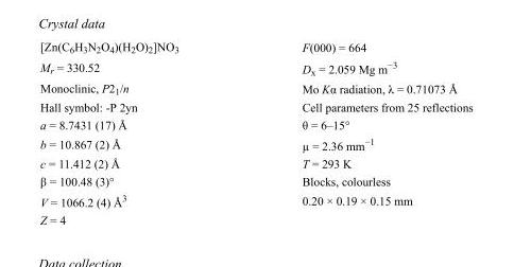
<table><tbody><tr><td>[Zn(C<sub>6</sub>H<sub>3</sub>N<sub>2</sub>O<sub>4</sub>)(H<sub>2</sub>O)<sub>2</sub>]NO<sub>3</sub></td><td>F(000) = 664</td></tr><tr><td>M<sub>r</sub> = 330.52</td><td>D<sub>x</sub> = 2.059 Mg m<sup>−3</sup></td></tr><tr><td>Monoclinic, P2<sub>1</sub>/n</td><td>Mo Kα radiation, λ = 0.71073 Å</td></tr><tr><td>Hall symbol: -P 2yn</td><td>Cell parameters from 25 reflections</td></tr><tr><td>a = 8.7431 (17) Å</td><td>θ = 6–15°</td></tr><tr><td>b = 10.867 (2) Å</td><td>µ = 2.36 mm<sup>−1</sup></td></tr><tr><td>c = 11.412 (2) Å</td><td>T = 293 K</td></tr><tr><td>β = 100.48 (3)°</td><td>Blocks, colourless</td></tr><tr><td>V = 1066.2 (4) Å<sup>3</sup></td><td>0.20 × 0.19 × 0.15 mm</td></tr><tr><td>Z = 4</td><td></td></tr></tbody></table>